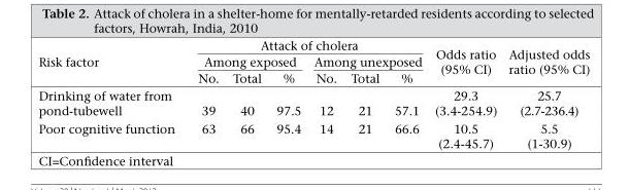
<table><thead><tr><td rowspan="3">Risk factor</td><td colspan="6">Attack of cholera</td><td rowspan="3">Odds ratio (95% CI)</td><td rowspan="3">Adjusted odds ratio (95% CI)</td></tr><tr><td colspan="3">Among exposed</td><td colspan="3">Among unexposed</td></tr><tr><td>No.</td><td>Total</td><td>%</td><td>No.</td><td>Total</td><td>%</td></tr></thead><tbody><tr><td>Drinking of water from pond-tubewell</td><td>39</td><td>40</td><td>97.5</td><td>12</td><td>21</td><td>57.1</td><td>29.3 (3.4-254.9)</td><td>25.7 (2.7-236.4)</td></tr><tr><td>Poor cognitive function</td><td>63</td><td>66</td><td>95.4</td><td>14</td><td>21</td><td>66.6</td><td>10.5 (2.4-45.7)</td><td>5.5 (1-30.9)</td></tr></tbody></table>